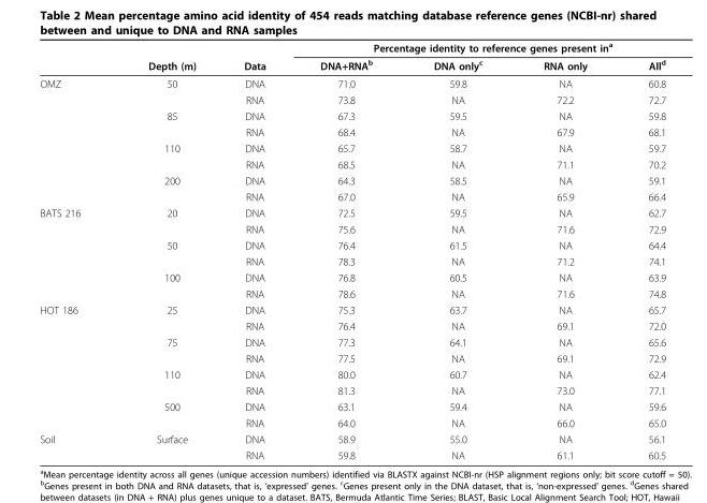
<table><thead><tr><td rowspan="2"></td><td rowspan="2">Depth (m)</td><td rowspan="2">Data</td><td colspan="4">Percentage identity to reference genes present in<sup>a</sup></td></tr><tr><td>DNA+RNA<sup>b</sup></td><td>DNA only<sup>c</sup></td><td>RNA only</td><td>All<sup>d</sup></td></tr></thead><tbody><tr><td rowspan="8">OMZ</td><td>50</td><td>DNA</td><td>71.0</td><td>59.8</td><td>NA</td><td>60.8</td></tr><tr><td></td><td>RNA</td><td>73.8</td><td>NA</td><td>72.2</td><td>72.7</td></tr><tr><td>85</td><td>DNA</td><td>67.3</td><td>59.5</td><td>NA</td><td>59.8</td></tr><tr><td></td><td>RNA</td><td>68.4</td><td>NA</td><td>67.9</td><td>68.1</td></tr><tr><td>110</td><td>DNA</td><td>65.7</td><td>58.7</td><td>NA</td><td>59.7</td></tr><tr><td></td><td>RNA</td><td>68.5</td><td>NA</td><td>71.1</td><td>70.2</td></tr><tr><td>200</td><td>DNA</td><td>64.3</td><td>58.5</td><td>NA</td><td>59.1</td></tr><tr><td></td><td>RNA</td><td>67.0</td><td>NA</td><td>65.9</td><td>66.4</td></tr><tr><td rowspan="6">BATS 216</td><td>20</td><td>DNA</td><td>72.5</td><td>59.5</td><td>NA</td><td>62.7</td></tr><tr><td></td><td>RNA</td><td>75.6</td><td>NA</td><td>71.6</td><td>72.9</td></tr><tr><td>50</td><td>DNA</td><td>76.4</td><td>61.5</td><td>NA</td><td>64.4</td></tr><tr><td></td><td>RNA</td><td>78.3</td><td>NA</td><td>71.2</td><td>74.1</td></tr><tr><td>100</td><td>DNA</td><td>76.8</td><td>60.5</td><td>NA</td><td>63.9</td></tr><tr><td></td><td>RNA</td><td>78.6</td><td>NA</td><td>71.6</td><td>74.8</td></tr><tr><td rowspan="8">HOT 186</td><td>25</td><td>DNA</td><td>75.3</td><td>63.7</td><td>NA</td><td>65.7</td></tr><tr><td></td><td>RNA</td><td>76.4</td><td>NA</td><td>69.1</td><td>72.0</td></tr><tr><td>75</td><td>DNA</td><td>77.3</td><td>64.1</td><td>NA</td><td>65.6</td></tr><tr><td></td><td>RNA</td><td>77.5</td><td>NA</td><td>69.1</td><td>72.9</td></tr><tr><td>110</td><td>DNA</td><td>80.0</td><td>60.7</td><td>NA</td><td>62.4</td></tr><tr><td></td><td>RNA</td><td>81.3</td><td>NA</td><td>73.0</td><td>77.1</td></tr><tr><td>500</td><td>DNA</td><td>63.1</td><td>59.4</td><td>NA</td><td>59.6</td></tr><tr><td></td><td>RNA</td><td>64.0</td><td>NA</td><td>66.0</td><td>65.0</td></tr><tr><td rowspan="2">Soil</td><td>Surface</td><td>DNA</td><td>58.9</td><td>55.0</td><td>NA</td><td>56.1</td></tr><tr><td></td><td>RNA</td><td>59.8</td><td>NA</td><td>61.1</td><td>60.5</td></tr></tbody></table>